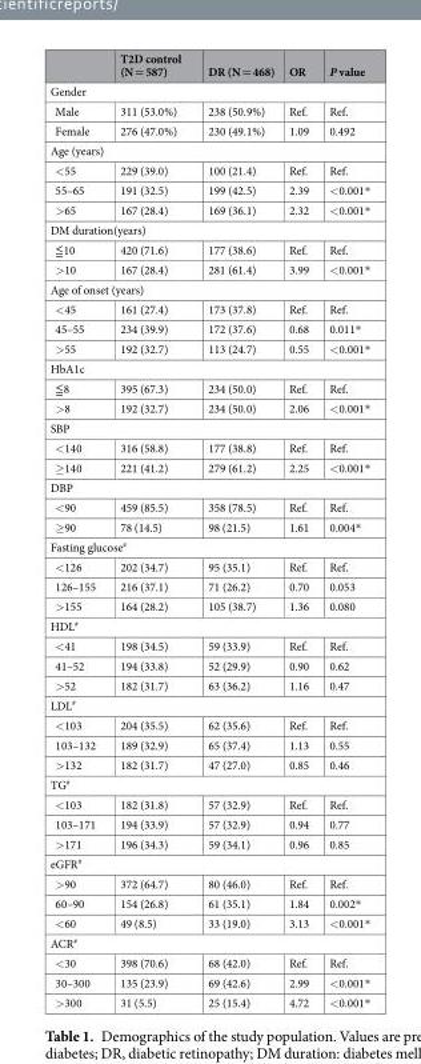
<table><thead><tr><td></td><td>T2D control (N = 587)</td><td>DR (N = 468)</td><td>OR</td><td>P value</td></tr></thead><tbody><tr><td colspan="5">Gender</td></tr><tr><td>Male</td><td>311 (53.0%)</td><td>238 (50.9%)</td><td>Ref.</td><td>Ref.</td></tr><tr><td>Female</td><td>276 (47.0%)</td><td>230 (49.1%)</td><td>1.09</td><td>0.492</td></tr><tr><td colspan="5">Age (years)</td></tr><tr><td>&lt;55</td><td>229 (39.0)</td><td>100 (21.4)</td><td>Ref.</td><td>Ref.</td></tr><tr><td>55–65</td><td>191 (32.5)</td><td>199 (42.5)</td><td>2.39</td><td>&lt;0.001*</td></tr><tr><td>&gt;65</td><td>167 (28.4)</td><td>169 (36.1)</td><td>2.32</td><td>&lt;0.001*</td></tr><tr><td colspan="5">DM duration(years)</td></tr><tr><td>≦10</td><td>420 (71.6)</td><td>177 (38.6)</td><td>Ref.</td><td>Ref.</td></tr><tr><td>&gt;10</td><td>167 (28.4)</td><td>281 (61.4)</td><td>3.99</td><td>&lt;0.001*</td></tr><tr><td colspan="5">Age of onset (years)</td></tr><tr><td>&lt;45</td><td>161 (27.4)</td><td>173 (37.8)</td><td>Ref.</td><td>Ref.</td></tr><tr><td>45–55</td><td>234 (39.9)</td><td>172 (37.6)</td><td>0.68</td><td>0.011*</td></tr><tr><td>&gt;55</td><td>192 (32.7)</td><td>113 (24.7)</td><td>0.55</td><td>&lt;0.001*</td></tr><tr><td colspan="5">HbA1c</td></tr><tr><td>≦8</td><td>395 (67.3)</td><td>234 (50.0)</td><td>Ref.</td><td>Ref.</td></tr><tr><td>&gt;8</td><td>192 (32.7)</td><td>234 (50.0)</td><td>2.06</td><td>&lt;0.001*</td></tr><tr><td colspan="5">SBP</td></tr><tr><td>&lt;140</td><td>316 (58.8)</td><td>177 (38.8)</td><td>Ref.</td><td>Ref.</td></tr><tr><td>≥140</td><td>221 (41.2)</td><td>279 (61.2)</td><td>2.25</td><td>&lt;0.001*</td></tr><tr><td colspan="5">DBP</td></tr><tr><td>&lt;90</td><td>459 (85.5)</td><td>358 (78.5)</td><td>Ref.</td><td>Ref.</td></tr><tr><td>≥90</td><td>78 (14.5)</td><td>98 (21.5)</td><td>1.61</td><td>0.004*</td></tr><tr><td colspan="5">Fasting glucose<sup>#</sup></td></tr><tr><td>&lt;126</td><td>202 (34.7)</td><td>95 (35.1)</td><td>Ref.</td><td>Ref.</td></tr><tr><td>126–155</td><td>216 (37.1)</td><td>71 (26.2)</td><td>0.70</td><td>0.053</td></tr><tr><td>&gt;155</td><td>164 (28.2)</td><td>105 (38.7)</td><td>1.36</td><td>0.080</td></tr><tr><td colspan="5">HDL<sup>#</sup></td></tr><tr><td>&lt;41</td><td>198 (34.5)</td><td>59 (33.9)</td><td>Ref.</td><td>Ref.</td></tr><tr><td>41–52</td><td>194 (33.8)</td><td>52 (29.9)</td><td>0.90</td><td>0.62</td></tr><tr><td>&gt;52</td><td>182 (31.7)</td><td>63 (36.2)</td><td>1.16</td><td>0.47</td></tr><tr><td colspan="5">LDL<sup>#</sup></td></tr><tr><td>&lt;103</td><td>204 (35.5)</td><td>62 (35.6)</td><td>Ref.</td><td>Ref.</td></tr><tr><td>103–132</td><td>189 (32.9)</td><td>65 (37.4)</td><td>1.13</td><td>0.55</td></tr><tr><td>&gt;132</td><td>182 (31.7)</td><td>47 (27.0)</td><td>0.85</td><td>0.46</td></tr><tr><td colspan="5">TG<sup>#</sup></td></tr><tr><td>&lt;103</td><td>182 (31.8)</td><td>57 (32.9)</td><td>Ref.</td><td>Ref.</td></tr><tr><td>103–171</td><td>194 (33.9)</td><td>57 (32.9)</td><td>0.94</td><td>0.77</td></tr><tr><td>&gt;171</td><td>196 (34.3)</td><td>59 (34.1)</td><td>0.96</td><td>0.85</td></tr><tr><td colspan="5">eGFR<sup>#</sup></td></tr><tr><td>&gt;90</td><td>372 (64.7)</td><td>80 (46.0)</td><td>Ref.</td><td>Ref.</td></tr><tr><td>60–90</td><td>154 (26.8)</td><td>61 (35.1)</td><td>1.84</td><td>0.002*</td></tr><tr><td>&lt;60</td><td>49 (8.5)</td><td>33 (19.0)</td><td>3.13</td><td>&lt;0.001*</td></tr><tr><td colspan="5">ACR<sup>#</sup></td></tr><tr><td>&lt;30</td><td>398 (70.6)</td><td>68 (42.0)</td><td>Ref.</td><td>Ref.</td></tr><tr><td>30–300</td><td>135 (23.9)</td><td>69 (42.6)</td><td>2.99</td><td>&lt;0.001*</td></tr><tr><td>&gt;300</td><td>31 (5.5)</td><td>25 (15.4)</td><td>4.72</td><td>&lt;0.001*</td></tr></tbody></table>